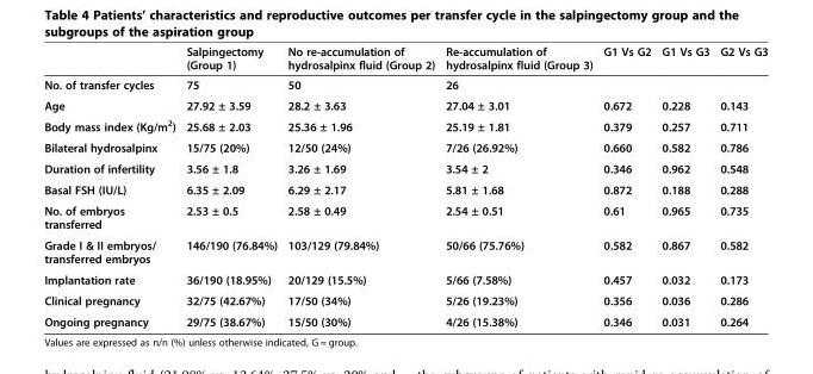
<table><thead><tr><td></td><td>Salpingectomy (Group 1)</td><td>No re-accumulation of hydrosalpinx fluid (Group 2)</td><td>Re-accumulation of hydrosalpinx fluid (Group 3)</td><td>G1 Vs G2</td><td>G1 Vs G3</td><td>G2 Vs G3</td></tr></thead><tbody><tr><td>No. of transfer cycles</td><td>75</td><td>50</td><td>26</td><td></td><td></td><td></td></tr><tr><td>Age</td><td>27.92 ± 3.59</td><td>28.2 ± 3.63</td><td>27.04 ± 3.01</td><td>0.672</td><td>0.228</td><td>0.143</td></tr><tr><td>Body mass index (Kg/m<sup>2</sup>)</td><td>25.68 ± 2.03</td><td>25.36 ± 1.96</td><td>25.19 ± 1.81</td><td>0.379</td><td>0.257</td><td>0.711</td></tr><tr><td>Bilateral hydrosalpinx</td><td>15/75 (20%)</td><td>12/50 (24%)</td><td>7/26 (26.92%)</td><td>0.660</td><td>0.582</td><td>0.786</td></tr><tr><td>Duration of infertility</td><td>3.56 ± 1.8</td><td>3.26 ± 1.69</td><td>3.54 ± 2</td><td>0.346</td><td>0.962</td><td>0.548</td></tr><tr><td>Basal FSH (IU/L)</td><td>6.35 ± 2.09</td><td>6.29 ± 2.17</td><td>5.81 ± 1.68</td><td>0.872</td><td>0.188</td><td>0.288</td></tr><tr><td>No. of embryos transferred</td><td>2.53 ± 0.5</td><td>2.58 ± 0.49</td><td>2.54 ± 0.51</td><td>0.61</td><td>0.965</td><td>0.735</td></tr><tr><td>Grade I &amp; II embryos/ transferred embryos</td><td>146/190 (76.84%)</td><td>103/129 (79.84%)</td><td>50/66 (75.76%)</td><td>0.582</td><td>0.867</td><td>0.582</td></tr><tr><td>Implantation rate</td><td>36/190 (18.95%)</td><td>20/129 (15.5%)</td><td>5/66 (7.58%)</td><td>0.457</td><td>0.032</td><td>0.173</td></tr><tr><td>Clinical pregnancy</td><td>32/75 (42.67%)</td><td>17/50 (34%)</td><td>5/26 (19.23%)</td><td>0.356</td><td>0.036</td><td>0.286</td></tr><tr><td>Ongoing pregnancy</td><td>29/75 (38.67%)</td><td>15/50 (30%)</td><td>4/26 (15.38%)</td><td>0.346</td><td>0.031</td><td>0.264</td></tr></tbody></table>